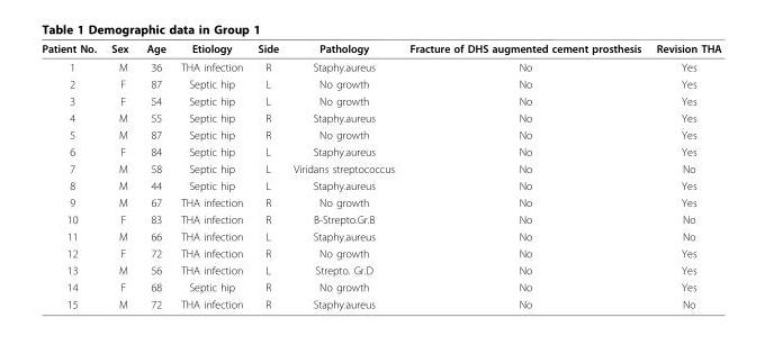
<table><thead><tr><td>Patient No.</td><td>Sex</td><td>Age</td><td>Etiology</td><td>Side</td><td>Pathology</td><td>Fracture of DHS augmented cement prosthesis</td><td>Revision THA</td></tr></thead><tbody><tr><td>1</td><td>M</td><td>36</td><td>THA infection</td><td>R</td><td>Staphy.aureus</td><td>No</td><td>Yes</td></tr><tr><td>2</td><td>F</td><td>87</td><td>Septic hip</td><td>L</td><td>No growth</td><td>No</td><td>Yes</td></tr><tr><td>3</td><td>F</td><td>54</td><td>Septic hip</td><td>L</td><td>No growth</td><td>No</td><td>Yes</td></tr><tr><td>4</td><td>M</td><td>55</td><td>Septic hip</td><td>R</td><td>Staphy.aureus</td><td>No</td><td>Yes</td></tr><tr><td>5</td><td>M</td><td>87</td><td>Septic hip</td><td>R</td><td>No growth</td><td>No</td><td>Yes</td></tr><tr><td>6</td><td>F</td><td>84</td><td>Septic hip</td><td>L</td><td>Staphy.aureus</td><td>No</td><td>Yes</td></tr><tr><td>7</td><td>M</td><td>58</td><td>Septic hip</td><td>L</td><td>Viridans streptococcus</td><td>No</td><td>No</td></tr><tr><td>8</td><td>M</td><td>44</td><td>Septic hip</td><td>L</td><td>Staphy.aureus</td><td>No</td><td>Yes</td></tr><tr><td>9</td><td>M</td><td>67</td><td>THA infection</td><td>R</td><td>No growth</td><td>No</td><td>Yes</td></tr><tr><td>10</td><td>F</td><td>83</td><td>THA infection</td><td>R</td><td>B-Strepto.Gr.B</td><td>No</td><td>No</td></tr><tr><td>11</td><td>M</td><td>66</td><td>THA infection</td><td>L</td><td>Staphy.aureus</td><td>No</td><td>No</td></tr><tr><td>12</td><td>F</td><td>72</td><td>THA infection</td><td>R</td><td>No growth</td><td>No</td><td>Yes</td></tr><tr><td>13</td><td>M</td><td>56</td><td>THA infection</td><td>L</td><td>Strepto. Gr.D</td><td>No</td><td>Yes</td></tr><tr><td>14</td><td>F</td><td>68</td><td>Septic hip</td><td>R</td><td>No growth</td><td>No</td><td>Yes</td></tr><tr><td>15</td><td>M</td><td>72</td><td>THA infection</td><td>R</td><td>Staphy.aureus</td><td>No</td><td>No</td></tr></tbody></table>